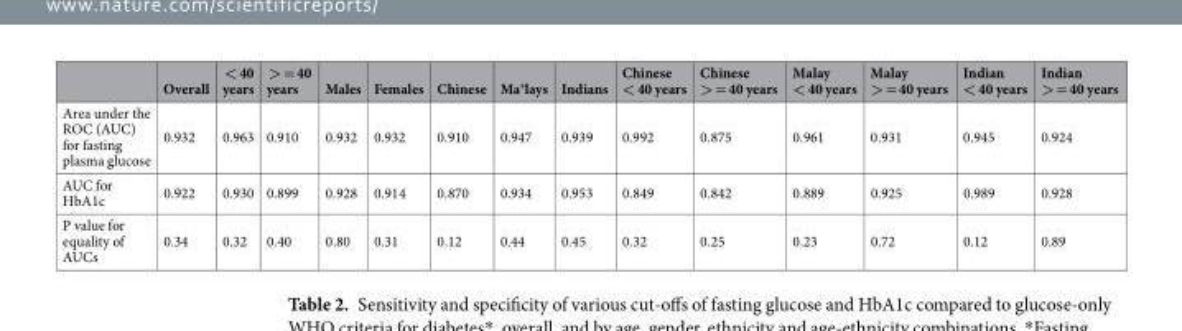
<table><thead><tr><td></td><td>Overall</td><td>&lt; 40 years</td><td>&gt; = 40 years</td><td>Males</td><td>Females</td><td>Chinese</td><td>Ma®lays</td><td>Indians</td><td>Chinese &lt; 40 years</td><td>Chinese &gt; = 40 years</td><td>Malay &lt; 40 years</td><td>Malay &gt; = 40 years</td><td>Indian &lt; 40 years</td><td>Indian &gt; = 40 years</td></tr></thead><tbody><tr><td>Area under the ROC (AUC) for fasting plasma glucose</td><td>0.932</td><td>0.963</td><td>0.910</td><td>0.932</td><td>0.932</td><td>0.910</td><td>0.947</td><td>0.939</td><td>0.992</td><td>0.875</td><td>0.961</td><td>0.931</td><td>0.945</td><td>0.924</td></tr><tr><td>AUC for HbA1c</td><td>0.922</td><td>0.930</td><td>0.899</td><td>0.928</td><td>0.914</td><td>0.870</td><td>0.934</td><td>0.953</td><td>0.849</td><td>0.842</td><td>0.889</td><td>0.925</td><td>0.989</td><td>0.928</td></tr><tr><td>P value for equality of AUCs</td><td>0.34</td><td>0.32</td><td>0.40</td><td>0.80</td><td>0.31</td><td>0.12</td><td>0.44</td><td>0.45</td><td>0.32</td><td>0.25</td><td>0.23</td><td>0.72</td><td>0.12</td><td>0.89</td></tr></tbody></table>